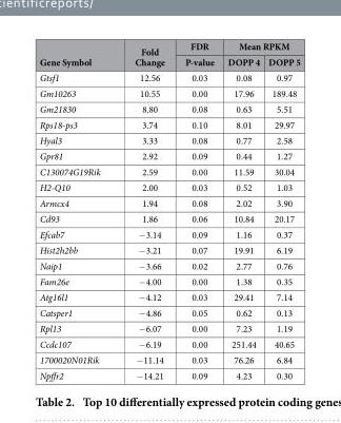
<table><thead><tr><td rowspan="2">Gene Symbol</td><td rowspan="2">Fold Change</td><td rowspan="2">FDR P-value</td><td colspan="2">Mean RPKM</td></tr><tr><td>DOPP 4</td><td>DOPP 5</td></tr></thead><tbody><tr><td>Gtsf1</td><td>12.56</td><td>0.03</td><td>0.08</td><td>0.97</td></tr><tr><td>Gm10263</td><td>10.55</td><td>0.00</td><td>17.96</td><td>189.48</td></tr><tr><td>Gm21830</td><td>8.80</td><td>0.08</td><td>0.63</td><td>5.51</td></tr><tr><td>Rps18-ps3</td><td>3.74</td><td>0.10</td><td>8.01</td><td>29.97</td></tr><tr><td>Hyal3</td><td>3.33</td><td>0.08</td><td>0.77</td><td>2.58</td></tr><tr><td>Gpr81</td><td>2.92</td><td>0.09</td><td>0.44</td><td>1.27</td></tr><tr><td>C130074G19Rik</td><td>2.59</td><td>0.00</td><td>11.59</td><td>30.04</td></tr><tr><td>H2-Q10</td><td>2.00</td><td>0.03</td><td>0.52</td><td>1.03</td></tr><tr><td>Armcx4</td><td>1.94</td><td>0.08</td><td>2.02</td><td>3.90</td></tr><tr><td>Cd93</td><td>1.86</td><td>0.06</td><td>10.84</td><td>20.17</td></tr><tr><td>Efcab7</td><td>− 3.14</td><td>0.09</td><td>1.16</td><td>0.37</td></tr><tr><td>Hist2h2bb</td><td>− 3.21</td><td>0.07</td><td>19.91</td><td>6.19</td></tr><tr><td>Naip1</td><td>− 3.66</td><td>0.02</td><td>2.77</td><td>0.76</td></tr><tr><td>Fam26e</td><td>− 4.00</td><td>0.00</td><td>1.38</td><td>0.35</td></tr><tr><td>Atg16l1</td><td>− 4.12</td><td>0.03</td><td>29.41</td><td>7.14</td></tr><tr><td>Catsper1</td><td>− 4.86</td><td>0.05</td><td>0.62</td><td>0.13</td></tr><tr><td>Rpl13</td><td>− 6.07</td><td>0.00</td><td>7.23</td><td>1.19</td></tr><tr><td>Ccdc107</td><td>− 6.19</td><td>0.00</td><td>251.44</td><td>40.65</td></tr><tr><td>1700020N01Rik</td><td>− 11.14</td><td>0.03</td><td>76.26</td><td>6.84</td></tr><tr><td>Npffr2</td><td>− 14.21</td><td>0.09</td><td>4.23</td><td>0.30</td></tr></tbody></table>